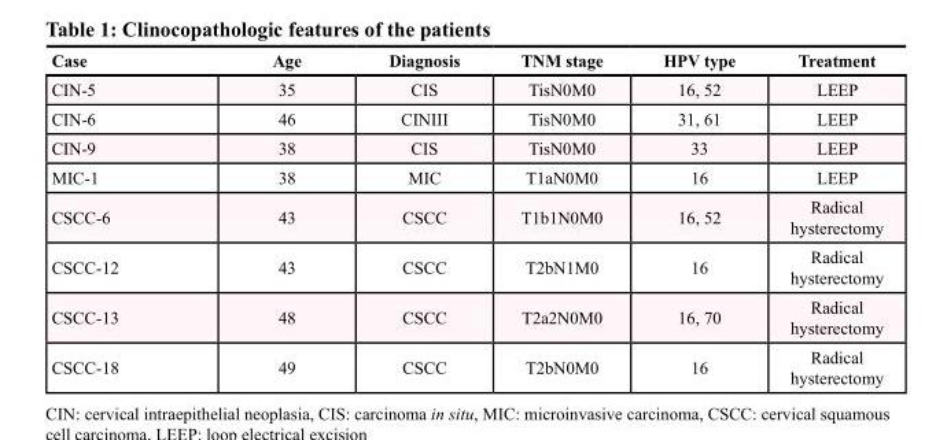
<table><thead><tr><td>Case</td><td>Age</td><td>Diagnosis</td><td>TNM stage</td><td>HPV type</td><td>Treatment</td></tr></thead><tbody><tr><td>CIN-5</td><td>35</td><td>CIS</td><td>TisN0M0</td><td>16, 52</td><td>LEEP</td></tr><tr><td>CIN-6</td><td>46</td><td>CINIII</td><td>TisN0M0</td><td>31, 61</td><td>LEEP</td></tr><tr><td>CIN-9</td><td>38</td><td>CIS</td><td>TisN0M0</td><td>33</td><td>LEEP</td></tr><tr><td>MIC-1</td><td>38</td><td>MIC</td><td>T1aN0M0</td><td>16</td><td>LEEP</td></tr><tr><td>CSCC-6</td><td>43</td><td>CSCC</td><td>T1b1N0M0</td><td>16, 52</td><td>Radical hysterectomy</td></tr><tr><td>CSCC-12</td><td>43</td><td>CSCC</td><td>T2bN1M0</td><td>16</td><td>Radical hysterectomy</td></tr><tr><td>CSCC-13</td><td>48</td><td>CSCC</td><td>T2a2N0M0</td><td>16, 70</td><td>Radical hysterectomy</td></tr><tr><td>CSCC-18</td><td>49</td><td>CSCC</td><td>T2bN0M0</td><td>16</td><td>Radical hysterectomy</td></tr></tbody></table>